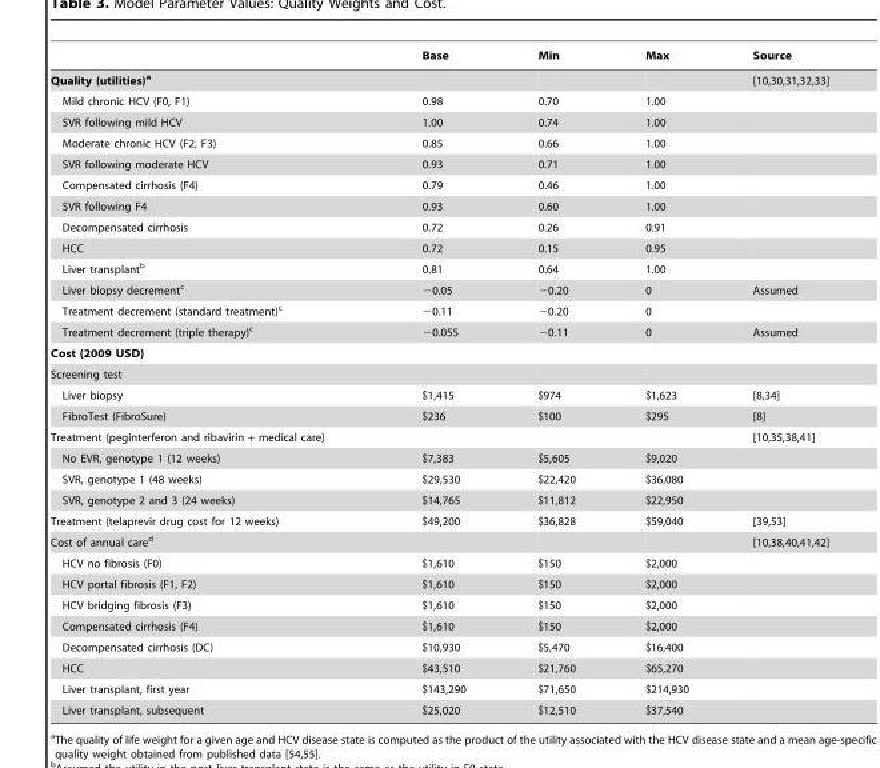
<table><thead><tr><td></td><td>Base</td><td>Min</td><td>Max</td><td>Source</td></tr></thead><tbody><tr><td>Quality (utilities)a</td><td></td><td></td><td></td><td>[10,30,31,32,33]</td></tr><tr><td>Mild chronic HCV (F0, F1)</td><td>0.98</td><td>0.70</td><td>1.00</td><td></td></tr><tr><td>SVR following mild HCV</td><td>1.00</td><td>0.74</td><td>1.00</td><td></td></tr><tr><td>Moderate chronic HCV (F2, F3)</td><td>0.85</td><td>0.66</td><td>1.00</td><td></td></tr><tr><td>SVR following moderate HCV</td><td>0.93</td><td>0.71</td><td>1.00</td><td></td></tr><tr><td>Compensated cirrhosis (F4)</td><td>0.79</td><td>0.46</td><td>1.00</td><td></td></tr><tr><td>SVR following F4</td><td>0.93</td><td>0.60</td><td>1.00</td><td></td></tr><tr><td>Decompensated cirrhosis</td><td>0.72</td><td>0.26</td><td>0.91</td><td></td></tr><tr><td>HCC</td><td>0.72</td><td>0.15</td><td>0.95</td><td></td></tr><tr><td>Liver transplant<sup>b</sup></td><td>0.81</td><td>0.64</td><td>1.00</td><td></td></tr><tr><td>Liver biopsy decrement<sup>c</sup></td><td>−0.05</td><td>−0.20</td><td>0</td><td>Assumed</td></tr><tr><td>Treatment decrement (standard treatment)<sup>c</sup></td><td>−0.11</td><td>−0.20</td><td>0</td><td></td></tr><tr><td>Treatment decrement (triple therapy)<sup>c</sup></td><td>−0.055</td><td>−0.11</td><td>0</td><td>Assumed</td></tr><tr><td colspan="5">Cost (2009 USD)</td></tr><tr><td colspan="5">Screening test</td></tr><tr><td>Liver biopsy</td><td>$1,415</td><td>$974</td><td>$1,623</td><td>[8,34]</td></tr><tr><td>FibroTest (FibroSure)</td><td>$236</td><td>$100</td><td>$295</td><td>[8]</td></tr><tr><td>Treatment (peginterferon and ribavirin + medical care)</td><td></td><td></td><td></td><td>[10,35,38,41]</td></tr><tr><td>No EVR, genotype 1 (12 weeks)</td><td>$7,383</td><td>$5,605</td><td>$9,020</td><td></td></tr><tr><td>SVR, genotype 1 (48 weeks)</td><td>$29,530</td><td>$22,420</td><td>$36,080</td><td></td></tr><tr><td>SVR, genotype 2 and 3 (24 weeks)</td><td>$14,765</td><td>$11,812</td><td>$22,950</td><td></td></tr><tr><td>Treatment (telaprevir drug cost for 12 weeks)</td><td>$49,200</td><td>$36,828</td><td>$59,040</td><td>[39,53]</td></tr><tr><td>Cost of annual care<sup>d</sup></td><td></td><td></td><td></td><td>[10,38,40,41,42]</td></tr><tr><td>HCV no fibrosis (F0)</td><td>$1,610</td><td>$150</td><td>$2,000</td><td></td></tr><tr><td>HCV portal fibrosis (F1, F2)</td><td>$1,610</td><td>$150</td><td>$2,000</td><td></td></tr><tr><td>HCV bridging fibrosis (F3)</td><td>$1,610</td><td>$150</td><td>$2,000</td><td></td></tr><tr><td>Compensated cirrhosis (F4)</td><td>$1,610</td><td>$150</td><td>$2,000</td><td></td></tr><tr><td>Decompensated cirrhosis (DC)</td><td>$10,930</td><td>$5,470</td><td>$16,400</td><td></td></tr><tr><td>HCC</td><td>$43,510</td><td>$21,760</td><td>$65,270</td><td></td></tr><tr><td>Liver transplant, first year</td><td>$143,290</td><td>$71,650</td><td>$214,930</td><td></td></tr><tr><td>Liver transplant, subsequent</td><td>$25,020</td><td>$12,510</td><td>$37,540</td><td></td></tr></tbody></table>